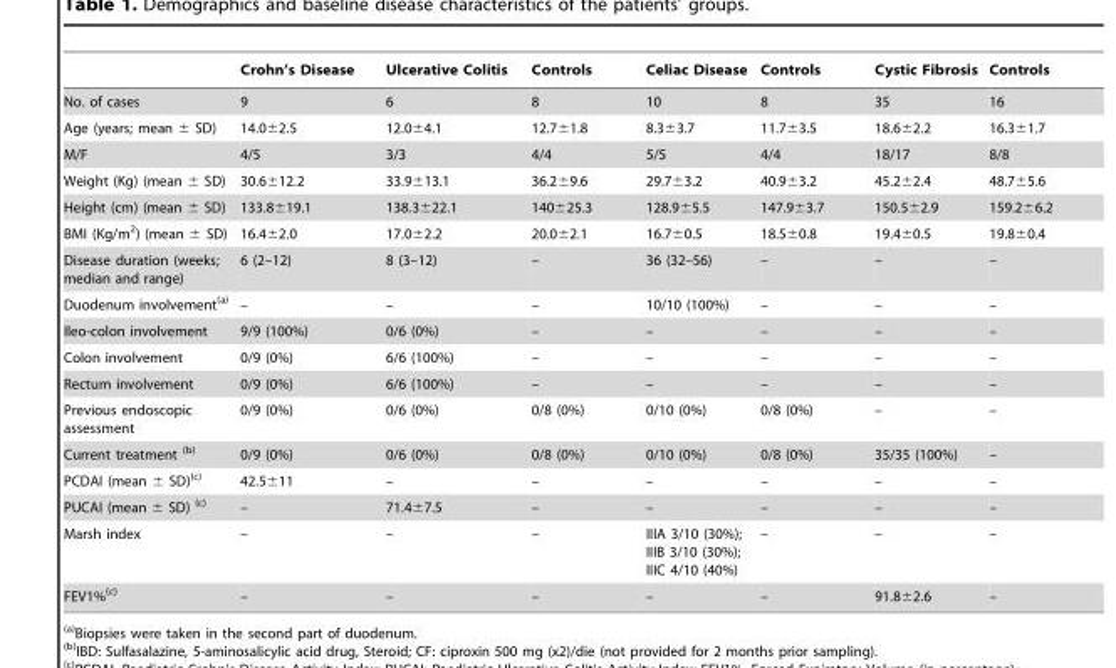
<table><thead><tr><td></td><td>Crohn’s Disease</td><td>Ulcerative Colitis</td><td>Controls</td><td>Celiac Disease</td><td>Controls</td><td>Cystic Fibrosis</td><td>Controls</td></tr></thead><tbody><tr><td>No. of cases</td><td>9</td><td>6</td><td>8</td><td>10</td><td>8</td><td>35</td><td>16</td></tr><tr><td>Age (years; mean ± SD)</td><td>14.0±2.5</td><td>12.0±4.1</td><td>12.7±1.8</td><td>8.3±3.7</td><td>11.7±3.5</td><td>18.6±2.2</td><td>16.3±1.7</td></tr><tr><td>M/F</td><td>4/5</td><td>3/3</td><td>4/4</td><td>5/5</td><td>4/4</td><td>18/17</td><td>8/8</td></tr><tr><td>Weight (Kg) (mean ± SD)</td><td>30.6±12.2</td><td>33.9±13.1</td><td>36.2±9.6</td><td>29.7±3.2</td><td>40.9±3.2</td><td>45.2±2.4</td><td>48.7±5.6</td></tr><tr><td>Height (cm) (mean ± SD)</td><td>133.8±19.1</td><td>138.3±22.1</td><td>140±25.3</td><td>128.9±5.5</td><td>147.9±3.7</td><td>150.5±2.9</td><td>159.2±6.2</td></tr><tr><td>BMI (Kg/m<sup>2</sup>) (mean ± SD)</td><td>16.4±2.0</td><td>17.0±2.2</td><td>20.0±2.1</td><td>16.7±0.5</td><td>18.5±0.8</td><td>19.4±0.5</td><td>19.8±0.4</td></tr><tr><td>Disease duration (weeks; median and range)</td><td>6 (2–12)</td><td>8 (3–12)</td><td>–</td><td>36 (32–56)</td><td>–</td><td>–</td><td>–</td></tr><tr><td>Duodenum involvement(a)</td><td>–</td><td>–</td><td>–</td><td>10/10 (100%)</td><td>–</td><td>–</td><td>–</td></tr><tr><td>Ileo-colon involvement</td><td>9/9 (100%)</td><td>0/6 (0%)</td><td>–</td><td>–</td><td>–</td><td>–</td><td>–</td></tr><tr><td>Colon involvement</td><td>0/9 (0%)</td><td>6/6 (100%)</td><td>–</td><td>–</td><td>–</td><td>–</td><td>–</td></tr><tr><td>Rectum involvement</td><td>0/9 (0%)</td><td>6/6 (100%)</td><td>–</td><td>–</td><td>–</td><td>–</td><td>–</td></tr><tr><td>Previous endoscopic assessment</td><td>0/9 (0%)</td><td>0/6 (0%)</td><td>0/8 (0%)</td><td>0/10 (0%)</td><td>0/8 (0%)</td><td>–</td><td>–</td></tr><tr><td>Current treatment (b)</td><td>0/9 (0%)</td><td>0/6 (0%)</td><td>0/8 (0%)</td><td>0/10 (0%)</td><td>0/8 (0%)</td><td>35/35 (100%)</td><td>–</td></tr><tr><td>PCDAI (mean ± SD)(c)</td><td>42.5±11</td><td>–</td><td>–</td><td>–</td><td>–</td><td>–</td><td>–</td></tr><tr><td>PUCAI (mean ± SD) (c)</td><td>–</td><td>71.4±7.5</td><td>–</td><td>–</td><td>–</td><td>–</td><td>–</td></tr><tr><td>Marsh index</td><td>–</td><td>–</td><td>–</td><td>IIIA 3/10 (30%); IIIB 3/10 (30%); IIIC 4/10 (40%)</td><td>–</td><td>–</td><td>–</td></tr><tr><td>FEV1%(c)</td><td>–</td><td>–</td><td>–</td><td>–</td><td>–</td><td>91.8±2.6</td><td>–</td></tr></tbody></table>